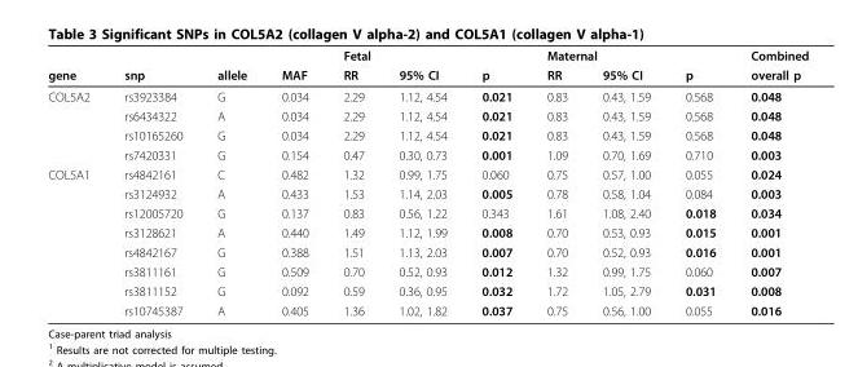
<table><thead><tr><td rowspan="2">gene</td><td rowspan="2">snp</td><td rowspan="2">allele</td><td rowspan="2">MAF</td><td colspan="3">Fetal</td><td colspan="3">Maternal</td><td rowspan="2">Combined overall p</td></tr><tr><td>RR</td><td>95% CI</td><td>p</td><td>RR</td><td>95% CI</td><td>p</td></tr></thead><tbody><tr><td rowspan="4">COL5A2</td><td>rs3923384</td><td>G</td><td>0.034</td><td>2.29</td><td>1.12, 4.54</td><td>0.021</td><td>0.83</td><td>0.43, 1.59</td><td>0.568</td><td>0.048</td></tr><tr><td>rs6434322</td><td>A</td><td>0.034</td><td>2.29</td><td>1.12, 4.54</td><td>0.021</td><td>0.83</td><td>0.43, 1.59</td><td>0.568</td><td>0.048</td></tr><tr><td>rs10165260</td><td>G</td><td>0.034</td><td>2.29</td><td>1.12, 4.54</td><td>0.021</td><td>0.83</td><td>0.43, 1.59</td><td>0.568</td><td>0.048</td></tr><tr><td>rs7420331</td><td>G</td><td>0.154</td><td>0.47</td><td>0.30, 0.73</td><td>0.001</td><td>1.09</td><td>0.70, 1.69</td><td>0.710</td><td>0.003</td></tr><tr><td rowspan="8">COL5A1</td><td>rs4842161</td><td>C</td><td>0.482</td><td>1.32</td><td>0.99, 1.75</td><td>0.060</td><td>0.75</td><td>0.57, 1.00</td><td>0.055</td><td>0.024</td></tr><tr><td>rs3124932</td><td>A</td><td>0.433</td><td>1.53</td><td>1.14, 2.03</td><td>0.005</td><td>0.78</td><td>0.58, 1.04</td><td>0.084</td><td>0.003</td></tr><tr><td>rs12005720</td><td>G</td><td>0.137</td><td>0.83</td><td>0.56, 1.22</td><td>0.343</td><td>1.61</td><td>1.08, 2.40</td><td>0.018</td><td>0.034</td></tr><tr><td>rs3128621</td><td>A</td><td>0.440</td><td>1.49</td><td>1.12, 1.99</td><td>0.008</td><td>0.70</td><td>0.53, 0.93</td><td>0.015</td><td>0.001</td></tr><tr><td>rs4842167</td><td>G</td><td>0.388</td><td>1.51</td><td>1.13, 2.03</td><td>0.007</td><td>0.70</td><td>0.52, 0.93</td><td>0.016</td><td>0.001</td></tr><tr><td>rs3811161</td><td>G</td><td>0.509</td><td>0.70</td><td>0.52, 0.93</td><td>0.012</td><td>1.32</td><td>0.99, 1.75</td><td>0.060</td><td>0.007</td></tr><tr><td>rs3811152</td><td>G</td><td>0.092</td><td>0.59</td><td>0.36, 0.95</td><td>0.032</td><td>1.72</td><td>1.05, 2.79</td><td>0.031</td><td>0.008</td></tr><tr><td>rs10745387</td><td>A</td><td>0.405</td><td>1.36</td><td>1.02, 1.82</td><td>0.037</td><td>0.75</td><td>0.56, 1.00</td><td>0.055</td><td>0.016</td></tr></tbody></table>